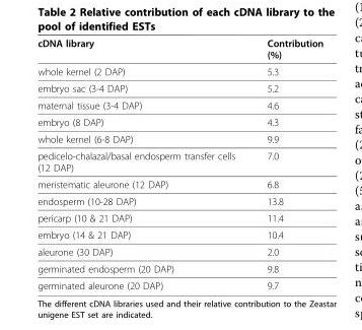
<table><thead><tr><td>cDNA library</td><td>Contribution (%)</td></tr></thead><tbody><tr><td>whole kernel (2 DAP)</td><td>5.3</td></tr><tr><td>embryo sac (3-4 DAP)</td><td>5.2</td></tr><tr><td>maternal tissue (3-4 DAP)</td><td>4.6</td></tr><tr><td>embryo (8 DAP)</td><td>4.3</td></tr><tr><td>whole kernel (6-8 DAP)</td><td>9.9</td></tr><tr><td>pedicelo-chalazal/basal endosperm transfer cells (12 DAP)</td><td>7.0</td></tr><tr><td>meristematic aleurone (12 DAP)</td><td>6.8</td></tr><tr><td>endosperm (10-28 DAP)</td><td>13.8</td></tr><tr><td>pericarp (10 &amp; 21 DAP)</td><td>11.4</td></tr><tr><td>embryo (14 &amp; 21 DAP)</td><td>10.4</td></tr><tr><td>aleurone (30 DAP)</td><td>2.0</td></tr><tr><td>germinated endosperm (20 DAP)</td><td>9.8</td></tr><tr><td>germinated aleurone (20 DAP)</td><td>9.7</td></tr></tbody></table>